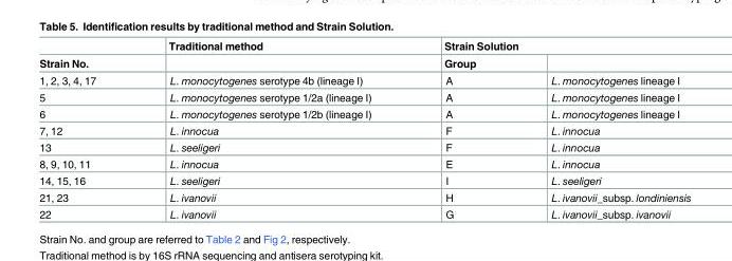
<table><thead><tr><td rowspan="2">Strain No.</td><td rowspan="2">Traditional method</td><td colspan="2">Strain Solution</td></tr><tr><td>Group</td><td></td></tr></thead><tbody><tr><td>1, 2, 3, 4, 17</td><td>L. monocytogenes serotype 4b (lineage I)</td><td>A</td><td>L. monocytogenes lineage I</td></tr><tr><td>5</td><td>L. monocytogenes serotype 1/2a (lineage I)</td><td>A</td><td>L. monocytogenes lineage I</td></tr><tr><td>6</td><td>L. monocytogenes serotype 1/2b (lineage I)</td><td>A</td><td>L. monocytogenes lineage I</td></tr><tr><td>7, 12</td><td>L. innocua</td><td>F</td><td>L. innocua</td></tr><tr><td>13</td><td>L. seeligeri</td><td>F</td><td>L. innocua</td></tr><tr><td>8, 9, 10, 11</td><td>L. innocua</td><td>E</td><td>L. innocua</td></tr><tr><td>14, 15, 16</td><td>L. seeligeri</td><td>I</td><td>L. seeligeri</td></tr><tr><td>21, 23</td><td>L. ivanovii</td><td>H</td><td>L. ivanovii_subsp. londiniensis</td></tr><tr><td>22</td><td>L. ivanovii</td><td>G</td><td>L. ivanovii_subsp. ivanovii</td></tr></tbody></table>